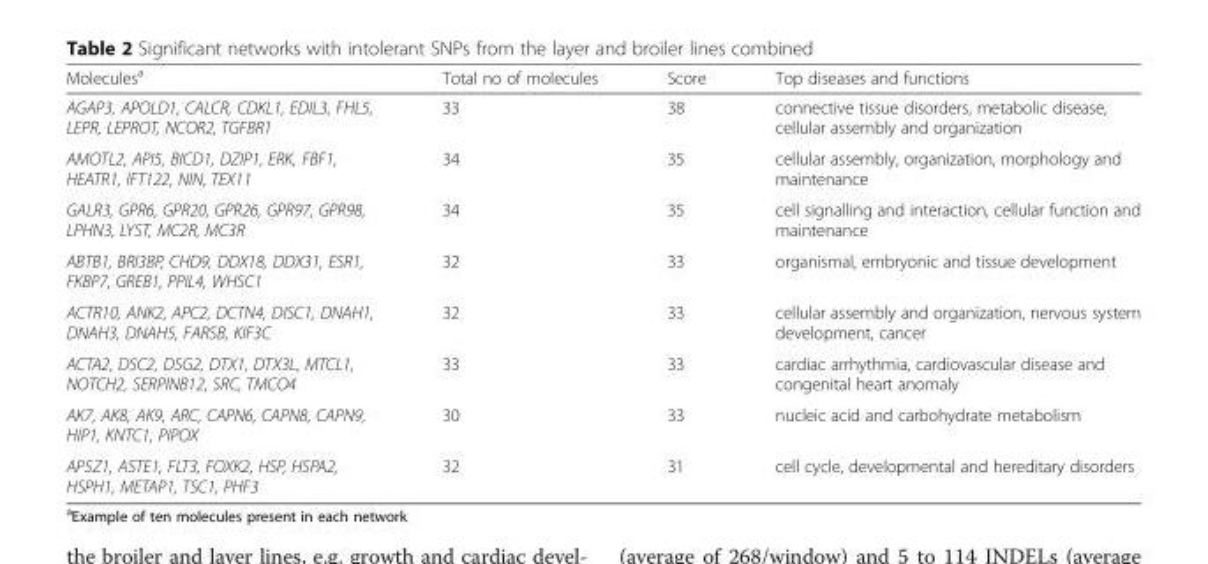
<table><thead><tr><td>Molecules<sup>a</sup></td><td>Total no of molecules</td><td>Score</td><td>Top diseases and functions</td></tr></thead><tbody><tr><td>AGAP3, APOLD1, CALCR, CDKL1, EDIL3, FHL5, LEPR, LEPROT, NCOR2, TGFBR1</td><td>33</td><td>38</td><td>connective tissue disorders, metabolic disease, cellular assembly and organization</td></tr><tr><td>AMOTL2, API5, BICD1, DZIP1, ERK, FBF1, HEATR1, IFT122, NIN, TEX11</td><td>34</td><td>35</td><td>cellular assembly, organization, morphology and maintenance</td></tr><tr><td>GALR3, GPR6, GPR20, GPR26, GPR97, GPR98, LPHN3, LYST, MC2R, MC3R</td><td>34</td><td>35</td><td>cell signalling and interaction, cellular function and maintenance</td></tr><tr><td>ABTB1, BRI3BP, CHD9, DDX18, DDX31, ESR1, FKBP7, GREB1, PPIL4, WHSC1</td><td>32</td><td>33</td><td>organismal, embryonic and tissue development</td></tr><tr><td>ACTR10, ANK2, APC2, DCTN4, DISC1, DNAH1, DNAH3, DNAH5, FARSB, KIF3C</td><td>32</td><td>33</td><td>cellular assembly and organization, nervous system development, cancer</td></tr><tr><td>ACTA2, DSC2, DSG2, DTX1, DTX3L, MTCL1, NOTCH2, SERPINB12, SRC, TMCO4</td><td>33</td><td>33</td><td>cardiac arrhythmia, cardiovascular disease and congenital heart anomaly</td></tr><tr><td>AK7, AK8, AK9, ARC, CAPN6, CAPN8, CAPN9, HIP1, KNTC1, PIPOX</td><td>30</td><td>33</td><td>nucleic acid and carbohydrate metabolism</td></tr><tr><td>AP5Z1, ASTE1, FLT3, FOXK2, HSP, HSPA2, HSPH1, METAP1, TSC1, PHF3</td><td>32</td><td>31</td><td>cell cycle, developmental and hereditary disorders</td></tr></tbody></table>